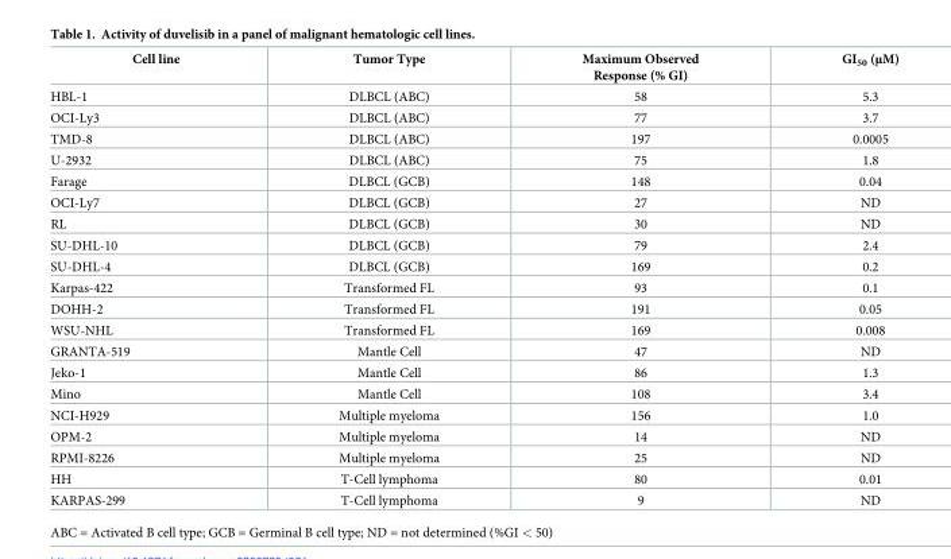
<table><thead><tr><td>Cell line</td><td>Tumor Type</td><td>Maximum Observed Response (% GI)</td><td>GI<sub>50</sub> (μM)</td></tr></thead><tbody><tr><td>HBL-1</td><td>DLBCL (ABC)</td><td>58</td><td>5.3</td></tr><tr><td>OCI-Ly3</td><td>DLBCL (ABC)</td><td>77</td><td>3.7</td></tr><tr><td>TMD-8</td><td>DLBCL (ABC)</td><td>197</td><td>0.0005</td></tr><tr><td>U-2932</td><td>DLBCL (ABC)</td><td>75</td><td>1.8</td></tr><tr><td>Farage</td><td>DLBCL (GCB)</td><td>148</td><td>0.04</td></tr><tr><td>OCI-Ly7</td><td>DLBCL (GCB)</td><td>27</td><td>ND</td></tr><tr><td>RL</td><td>DLBCL (GCB)</td><td>30</td><td>ND</td></tr><tr><td>SU-DHL-10</td><td>DLBCL (GCB)</td><td>79</td><td>2.4</td></tr><tr><td>SU-DHL-4</td><td>DLBCL (GCB)</td><td>169</td><td>0.2</td></tr><tr><td>Karpas-422</td><td>Transformed FL</td><td>93</td><td>0.1</td></tr><tr><td>DOHH-2</td><td>Transformed FL</td><td>191</td><td>0.05</td></tr><tr><td>WSU-NHL</td><td>Transformed FL</td><td>169</td><td>0.008</td></tr><tr><td>GRANTA-519</td><td>Mantle Cell</td><td>47</td><td>ND</td></tr><tr><td>Jeko-1</td><td>Mantle Cell</td><td>86</td><td>1.3</td></tr><tr><td>Mino</td><td>Mantle Cell</td><td>108</td><td>3.4</td></tr><tr><td>NCI-H929</td><td>Multiple myeloma</td><td>156</td><td>1.0</td></tr><tr><td>OPM-2</td><td>Multiple myeloma</td><td>14</td><td>ND</td></tr><tr><td>RPMI-8226</td><td>Multiple myeloma</td><td>25</td><td>ND</td></tr><tr><td>HH</td><td>T-Cell lymphoma</td><td>80</td><td>0.01</td></tr><tr><td>KARPAS-299</td><td>T-Cell lymphoma</td><td>9</td><td>ND</td></tr></tbody></table>